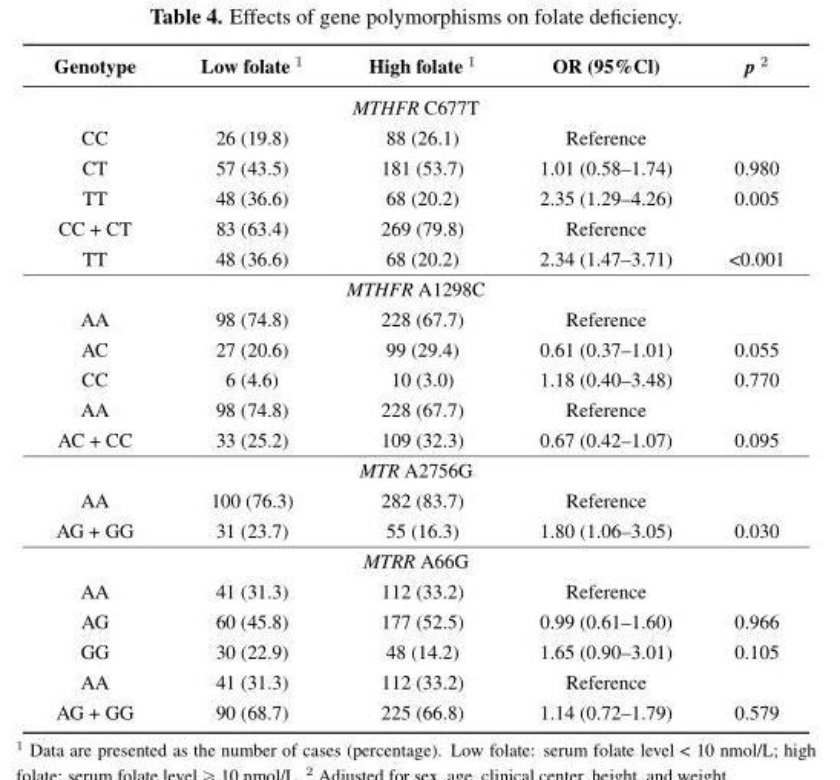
<table><thead><tr><td>Genotype</td><td>Low folate <sup>1</sup></td><td>High folate <sup>1</sup></td><td>OR (95%Cl)</td><td>p <sup>2</sup></td></tr></thead><tbody><tr><td colspan="5">MTHFR C677T</td></tr><tr><td>CC</td><td>26 (19.8)</td><td>88 (26.1)</td><td>Reference</td><td></td></tr><tr><td>CT</td><td>57 (43.5)</td><td>181 (53.7)</td><td>1.01 (0.58–1.74)</td><td>0.980</td></tr><tr><td>TT</td><td>48 (36.6)</td><td>68 (20.2)</td><td>2.35 (1.29–4.26)</td><td>0.005</td></tr><tr><td>CC + CT</td><td>83 (63.4)</td><td>269 (79.8)</td><td>Reference</td><td></td></tr><tr><td>TT</td><td>48 (36.6)</td><td>68 (20.2)</td><td>2.34 (1.47–3.71)</td><td>&lt;0.001</td></tr><tr><td colspan="5">MTHFR A1298C</td></tr><tr><td>AA</td><td>98 (74.8)</td><td>228 (67.7)</td><td>Reference</td><td></td></tr><tr><td>AC</td><td>27 (20.6)</td><td>99 (29.4)</td><td>0.61 (0.37–1.01)</td><td>0.055</td></tr><tr><td>CC</td><td>6 (4.6)</td><td>10 (3.0)</td><td>1.18 (0.40–3.48)</td><td>0.770</td></tr><tr><td>AA</td><td>98 (74.8)</td><td>228 (67.7)</td><td>Reference</td><td></td></tr><tr><td>AC + CC</td><td>33 (25.2)</td><td>109 (32.3)</td><td>0.67 (0.42–1.07)</td><td>0.095</td></tr><tr><td colspan="5">MTR A2756G</td></tr><tr><td>AA</td><td>100 (76.3)</td><td>282 (83.7)</td><td>Reference</td><td></td></tr><tr><td>AG + GG</td><td>31 (23.7)</td><td>55 (16.3)</td><td>1.80 (1.06–3.05)</td><td>0.030</td></tr><tr><td colspan="5">MTRR A66G</td></tr><tr><td>AA</td><td>41 (31.3)</td><td>112 (33.2)</td><td>Reference</td><td></td></tr><tr><td>AG</td><td>60 (45.8)</td><td>177 (52.5)</td><td>0.99 (0.61–1.60)</td><td>0.966</td></tr><tr><td>GG</td><td>30 (22.9)</td><td>48 (14.2)</td><td>1.65 (0.90–3.01)</td><td>0.105</td></tr><tr><td>AA</td><td>41 (31.3)</td><td>112 (33.2)</td><td>Reference</td><td></td></tr><tr><td>AG + GG</td><td>90 (68.7)</td><td>225 (66.8)</td><td>1.14 (0.72–1.79)</td><td>0.579</td></tr></tbody></table>